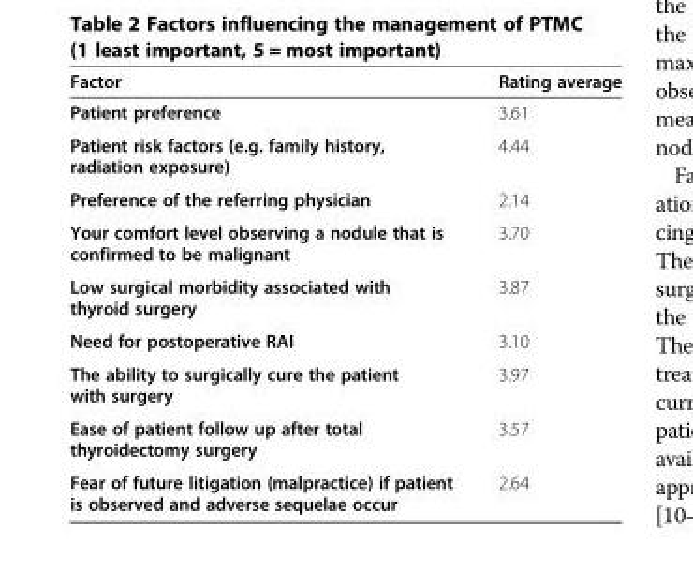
<table><thead><tr><td>Factor</td><td>Rating average</td></tr></thead><tbody><tr><td>Patient preference</td><td>3.61</td></tr><tr><td>Patient risk factors (e.g. family history, radiation exposure)</td><td>4.44</td></tr><tr><td>Preference of the referring physician</td><td>2.14</td></tr><tr><td>Your comfort level observing a nodule that is confirmed to be malignant</td><td>3.70</td></tr><tr><td>Low surgical morbidity associated with thyroid surgery</td><td>3.87</td></tr><tr><td>Need for postoperative RAI</td><td>3.10</td></tr><tr><td>The ability to surgically cure the patient with surgery</td><td>3.97</td></tr><tr><td>Ease of patient follow up after total thyroidectomy surgery</td><td>3.57</td></tr><tr><td>Fear of future litigation (malpractice) if patient is observed and adverse sequelae occur</td><td>2.64</td></tr></tbody></table>